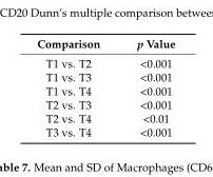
<table><thead><tr><td>Comparison</td><td>p Value</td></tr></thead><tbody><tr><td>T1 vs. T2</td><td>&lt;0.001</td></tr><tr><td>T1 vs. T3</td><td>&lt;0.001</td></tr><tr><td>T1 vs. T4</td><td>&lt;0.001</td></tr><tr><td>T2 vs. T3</td><td>&lt;0.001</td></tr><tr><td>T2 vs. T4</td><td>&lt;0.01</td></tr><tr><td>T3 vs. T4</td><td>&lt;0.001</td></tr></tbody></table>